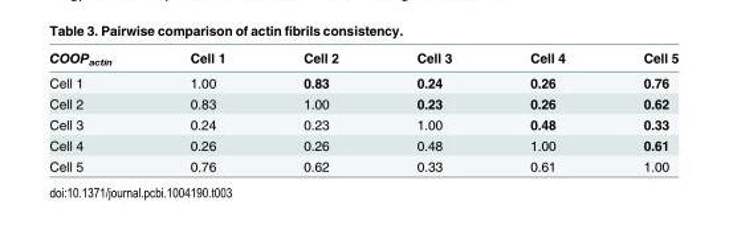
<table><thead><tr><td>COOP<sub>actin</sub></td><td>Cell 1</td><td>Cell 2</td><td>Cell 3</td><td>Cell 4</td><td>Cell 5</td></tr></thead><tbody><tr><td>Cell 1</td><td>1.00</td><td>0.83</td><td>0.24</td><td>0.26</td><td>0.76</td></tr><tr><td>Cell 2</td><td>0.83</td><td>1.00</td><td>0.23</td><td>0.26</td><td>0.62</td></tr><tr><td>Cell 3</td><td>0.24</td><td>0.23</td><td>1.00</td><td>0.48</td><td>0.33</td></tr><tr><td>Cell 4</td><td>0.26</td><td>0.26</td><td>0.48</td><td>1.00</td><td>0.61</td></tr><tr><td>Cell 5</td><td>0.76</td><td>0.62</td><td>0.33</td><td>0.61</td><td>1.00</td></tr></tbody></table>